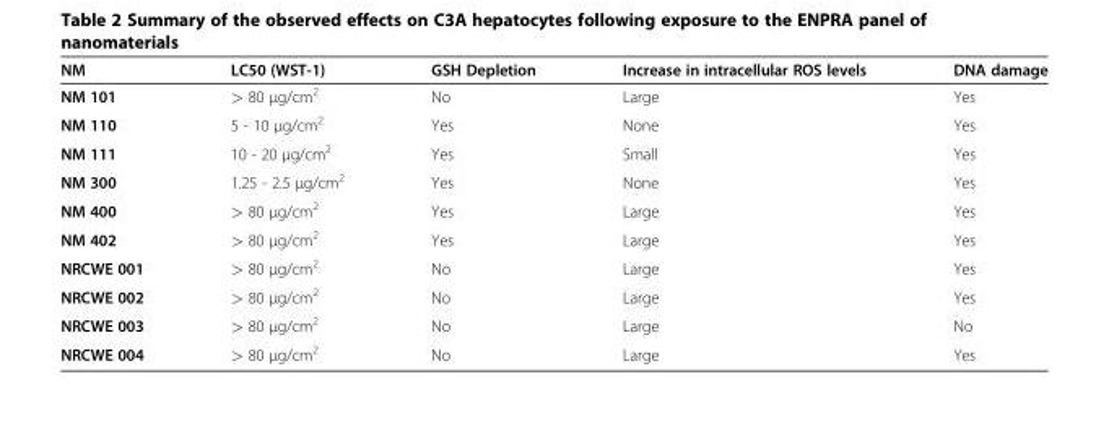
<table><thead><tr><td>NM</td><td>LC50 (WST-1)</td><td>GSH Depletion</td><td>Increase in intracellular ROS levels</td><td>DNA damage</td></tr></thead><tbody><tr><td>NM 101</td><td>&gt; 80 μg/cm<sup>2</sup></td><td>No</td><td>Large</td><td>Yes</td></tr><tr><td>NM 110</td><td>5 - 10 μg/cm<sup>2</sup></td><td>Yes</td><td>None</td><td>Yes</td></tr><tr><td>NM 111</td><td>10 - 20 μg/cm<sup>2</sup></td><td>Yes</td><td>Small</td><td>Yes</td></tr><tr><td>NM 300</td><td>1.25 - 2.5 μg/cm<sup>2</sup></td><td>Yes</td><td>None</td><td>Yes</td></tr><tr><td>NM 400</td><td>&gt; 80 μg/cm<sup>2</sup></td><td>Yes</td><td>Large</td><td>Yes</td></tr><tr><td>NM 402</td><td>&gt; 80 μg/cm<sup>2</sup></td><td>Yes</td><td>Large</td><td>Yes</td></tr><tr><td>NRCWE 001</td><td>&gt; 80 μg/cm<sup>2</sup></td><td>No</td><td>Large</td><td>Yes</td></tr><tr><td>NRCWE 002</td><td>&gt; 80 μg/cm<sup>2</sup></td><td>No</td><td>Large</td><td>Yes</td></tr><tr><td>NRCWE 003</td><td>&gt; 80 μg/cm<sup>2</sup></td><td>No</td><td>Large</td><td>No</td></tr><tr><td>NRCWE 004</td><td>&gt; 80 μg/cm<sup>2</sup></td><td>No</td><td>Large</td><td>Yes</td></tr></tbody></table>